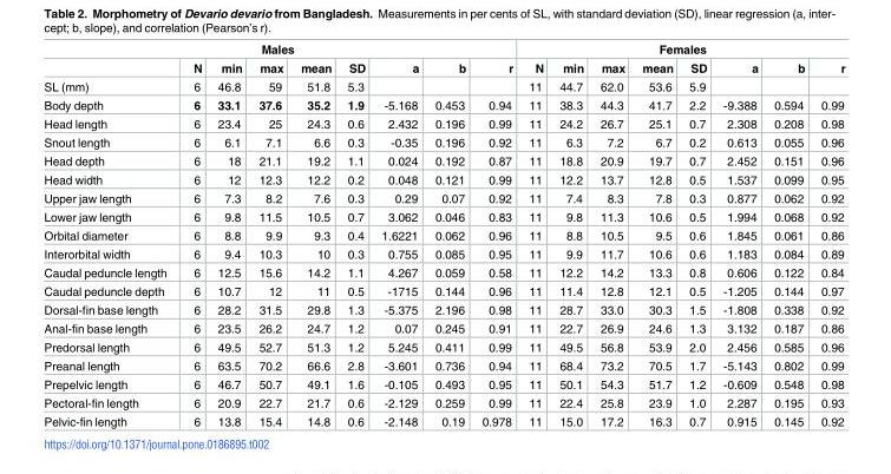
<table><thead><tr><td colspan="9">Males</td><td colspan="8">Females</td></tr><tr><td></td><td>N</td><td>min</td><td>max</td><td>mean</td><td>SD</td><td>a</td><td>b</td><td>r</td><td>N</td><td>min</td><td>max</td><td>mean</td><td>SD</td><td>a</td><td>b</td><td>r</td></tr></thead><tbody><tr><td>SL (mm)</td><td>6</td><td>46.8</td><td>59</td><td>51.8</td><td>5.3</td><td></td><td></td><td></td><td>11</td><td>44.7</td><td>62.0</td><td>53.6</td><td>5.9</td><td></td><td></td><td></td></tr><tr><td>Body depth</td><td>6</td><td>33.1</td><td>37.6</td><td>35.2</td><td>1.9</td><td>-5.168</td><td>0.453</td><td>0.94</td><td>11</td><td>38.3</td><td>44.3</td><td>41.7</td><td>2.2</td><td>-9.388</td><td>0.594</td><td>0.99</td></tr><tr><td>Head length</td><td>6</td><td>23.4</td><td>25</td><td>24.3</td><td>0.6</td><td>2.432</td><td>0.196</td><td>0.99</td><td>11</td><td>24.2</td><td>26.7</td><td>25.1</td><td>0.7</td><td>2.308</td><td>0.208</td><td>0.98</td></tr><tr><td>Snout length</td><td>6</td><td>6.1</td><td>7.1</td><td>6.6</td><td>0.3</td><td>-0.35</td><td>0.196</td><td>0.92</td><td>11</td><td>6.3</td><td>7.2</td><td>6.7</td><td>0.2</td><td>0.613</td><td>0.055</td><td>0.96</td></tr><tr><td>Head depth</td><td>6</td><td>18</td><td>21.1</td><td>19.2</td><td>1.1</td><td>0.024</td><td>0.192</td><td>0.87</td><td>11</td><td>18.8</td><td>20.9</td><td>19.7</td><td>0.7</td><td>2.452</td><td>0.151</td><td>0.96</td></tr><tr><td>Head width</td><td>6</td><td>12</td><td>12.3</td><td>12.2</td><td>0.2</td><td>0.048</td><td>0.121</td><td>0.99</td><td>11</td><td>12.2</td><td>13.7</td><td>12.8</td><td>0.5</td><td>1.537</td><td>0.099</td><td>0.95</td></tr><tr><td>Upper jaw length</td><td>6</td><td>7.3</td><td>8.2</td><td>7.6</td><td>0.3</td><td>0.29</td><td>0.07</td><td>0.92</td><td>11</td><td>7.4</td><td>8.3</td><td>7.8</td><td>0.3</td><td>0.877</td><td>0.062</td><td>0.92</td></tr><tr><td>Lower jaw length</td><td>6</td><td>9.8</td><td>11.5</td><td>10.5</td><td>0.7</td><td>3.062</td><td>0.046</td><td>0.83</td><td>11</td><td>9.8</td><td>11.3</td><td>10.6</td><td>0.5</td><td>1.994</td><td>0.068</td><td>0.92</td></tr><tr><td>Orbital diameter</td><td>6</td><td>8.8</td><td>9.9</td><td>9.3</td><td>0.4</td><td>1.6221</td><td>0.062</td><td>0.96</td><td>11</td><td>8.8</td><td>10.5</td><td>9.5</td><td>0.6</td><td>1.845</td><td>0.061</td><td>0.86</td></tr><tr><td>Interorbital width</td><td>6</td><td>9.4</td><td>10.3</td><td>10</td><td>0.3</td><td>0.755</td><td>0.085</td><td>0.95</td><td>11</td><td>9.9</td><td>11.7</td><td>10.6</td><td>0.6</td><td>1.183</td><td>0.084</td><td>0.89</td></tr><tr><td>Caudal peduncle length</td><td>6</td><td>12.5</td><td>15.6</td><td>14.2</td><td>1.1</td><td>4.267</td><td>0.059</td><td>0.58</td><td>11</td><td>12.2</td><td>14.2</td><td>13.3</td><td>0.8</td><td>0.606</td><td>0.122</td><td>0.84</td></tr><tr><td>Caudal peduncle depth</td><td>6</td><td>10.7</td><td>12</td><td>11</td><td>0.5</td><td>-1715</td><td>0.144</td><td>0.96</td><td>11</td><td>11.4</td><td>12.8</td><td>12.1</td><td>0.5</td><td>-1.205</td><td>0.144</td><td>0.97</td></tr><tr><td>Dorsal-fin base length</td><td>6</td><td>28.2</td><td>31.5</td><td>29.8</td><td>1.3</td><td>-5.375</td><td>2.196</td><td>0.98</td><td>11</td><td>28.7</td><td>33.0</td><td>30.3</td><td>1.5</td><td>-1.808</td><td>0.338</td><td>0.92</td></tr><tr><td>Anal-fin base length</td><td>6</td><td>23.5</td><td>26.2</td><td>24.7</td><td>1.2</td><td>0.07</td><td>0.245</td><td>0.91</td><td>11</td><td>22.7</td><td>26.9</td><td>24.6</td><td>1.3</td><td>3.132</td><td>0.187</td><td>0.86</td></tr><tr><td>Predorsal length</td><td>6</td><td>49.5</td><td>52.7</td><td>51.3</td><td>1.2</td><td>5.245</td><td>0.411</td><td>0.99</td><td>11</td><td>49.5</td><td>56.8</td><td>53.9</td><td>2.0</td><td>2.456</td><td>0.585</td><td>0.96</td></tr><tr><td>Preanal length</td><td>6</td><td>63.5</td><td>70.2</td><td>66.6</td><td>2.8</td><td>-3.601</td><td>0.736</td><td>0.94</td><td>11</td><td>68.4</td><td>73.2</td><td>70.5</td><td>1.7</td><td>-5.143</td><td>0.802</td><td>0.99</td></tr><tr><td>Prepelvic length</td><td>6</td><td>46.7</td><td>50.7</td><td>49.1</td><td>1.6</td><td>-0.105</td><td>0.493</td><td>0.95</td><td>11</td><td>50.1</td><td>54.3</td><td>51.7</td><td>1.2</td><td>-0.609</td><td>0.548</td><td>0.98</td></tr><tr><td>Pectoral-fin length</td><td>6</td><td>20.9</td><td>22.7</td><td>21.7</td><td>0.6</td><td>-2.129</td><td>0.259</td><td>0.99</td><td>11</td><td>22.4</td><td>25.8</td><td>23.9</td><td>1.0</td><td>2.287</td><td>0.195</td><td>0.93</td></tr><tr><td>Pelvic-fin length</td><td>6</td><td>13.8</td><td>15.4</td><td>14.8</td><td>0.6</td><td>-2.148</td><td>0.19</td><td>0.978</td><td>11</td><td>15.0</td><td>17.2</td><td>16.3</td><td>0.7</td><td>0.915</td><td>0.145</td><td>0.92</td></tr></tbody></table>